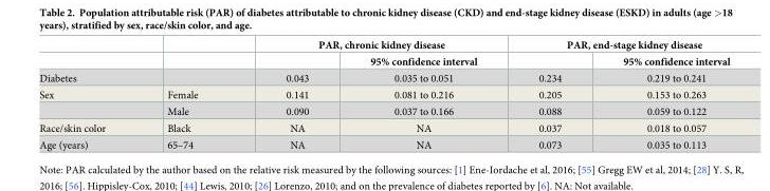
<table><thead><tr><td rowspan="2"></td><td rowspan="2"></td><td colspan="2">PAR, chronic kidney disease</td><td colspan="2">PAR, end-stage kidney disease</td></tr><tr><td></td><td>95% confidence interval</td><td></td><td>95% confidence interval</td></tr></thead><tbody><tr><td>Diabetes</td><td></td><td>0.043</td><td>0.035 to 0.051</td><td>0.234</td><td>0.219 to 0.241</td></tr><tr><td rowspan="2">Sex</td><td>Female</td><td>0.141</td><td>0.081 to 0.216</td><td>0.205</td><td>0.153 to 0.263</td></tr><tr><td>Male</td><td>0.090</td><td>0.037 to 0.166</td><td>0.088</td><td>0.059 to 0.122</td></tr><tr><td>Race/skin color</td><td>Black</td><td>NA</td><td>NA</td><td>0.037</td><td>0.018 to 0.057</td></tr><tr><td>Age (years)</td><td>65–74</td><td>NA</td><td>NA</td><td>0.073</td><td>0.035 to 0.113</td></tr></tbody></table>